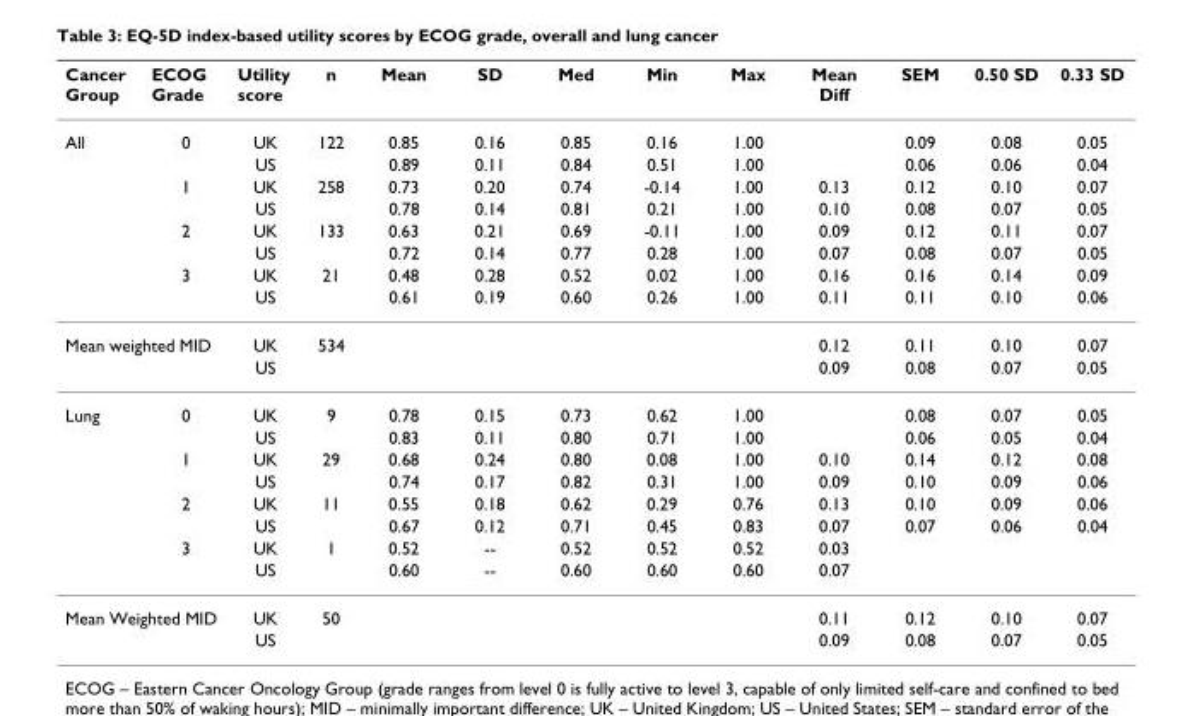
<table><thead><tr><td>Cancer Group</td><td>ECOG Grade</td><td>Utility score</td><td>n</td><td>Mean</td><td>SD</td><td>Med</td><td>Min</td><td>Max</td><td>Mean Diff</td><td>SEM</td><td>0.50 SD</td><td>0.33 SD</td></tr></thead><tbody><tr><td rowspan="8">All</td><td>0</td><td>UK</td><td>122</td><td>0.85</td><td>0.16</td><td>0.85</td><td>0.16</td><td>1.00</td><td></td><td>0.09</td><td>0.08</td><td>0.05</td></tr><tr><td></td><td>US</td><td></td><td>0.89</td><td>0.11</td><td>0.84</td><td>0.51</td><td>1.00</td><td></td><td>0.06</td><td>0.06</td><td>0.04</td></tr><tr><td>1</td><td>UK</td><td>258</td><td>0.73</td><td>0.20</td><td>0.74</td><td>-0.14</td><td>1.00</td><td>0.13</td><td>0.12</td><td>0.10</td><td>0.07</td></tr><tr><td></td><td>US</td><td></td><td>0.78</td><td>0.14</td><td>0.81</td><td>0.21</td><td>1.00</td><td>0.10</td><td>0.08</td><td>0.07</td><td>0.05</td></tr><tr><td>2</td><td>UK</td><td>133</td><td>0.63</td><td>0.21</td><td>0.69</td><td>-0.11</td><td>1.00</td><td>0.09</td><td>0.12</td><td>0.11</td><td>0.07</td></tr><tr><td></td><td>US</td><td></td><td>0.72</td><td>0.14</td><td>0.77</td><td>0.28</td><td>1.00</td><td>0.07</td><td>0.08</td><td>0.07</td><td>0.05</td></tr><tr><td>3</td><td>UK</td><td>21</td><td>0.48</td><td>0.28</td><td>0.52</td><td>0.02</td><td>1.00</td><td>0.16</td><td>0.16</td><td>0.14</td><td>0.09</td></tr><tr><td></td><td>US</td><td></td><td>0.61</td><td>0.19</td><td>0.60</td><td>0.26</td><td>1.00</td><td>0.11</td><td>0.11</td><td>0.10</td><td>0.06</td></tr><tr><td colspan="2">Mean weighted MID</td><td>UK</td><td>534</td><td></td><td></td><td></td><td></td><td></td><td>0.12</td><td>0.11</td><td>0.10</td><td>0.07</td></tr><tr><td></td><td></td><td>US</td><td></td><td></td><td></td><td></td><td></td><td></td><td>0.09</td><td>0.08</td><td>0.07</td><td>0.05</td></tr><tr><td rowspan="8">Lung</td><td>0</td><td>UK</td><td>9</td><td>0.78</td><td>0.15</td><td>0.73</td><td>0.62</td><td>1.00</td><td></td><td>0.08</td><td>0.07</td><td>0.05</td></tr><tr><td></td><td>US</td><td></td><td>0.83</td><td>0.11</td><td>0.80</td><td>0.71</td><td>1.00</td><td></td><td>0.06</td><td>0.05</td><td>0.04</td></tr><tr><td>1</td><td>UK</td><td>29</td><td>0.68</td><td>0.24</td><td>0.80</td><td>0.08</td><td>1.00</td><td>0.10</td><td>0.14</td><td>0.12</td><td>0.08</td></tr><tr><td></td><td>US</td><td></td><td>0.74</td><td>0.17</td><td>0.82</td><td>0.31</td><td>1.00</td><td>0.09</td><td>0.10</td><td>0.09</td><td>0.06</td></tr><tr><td>2</td><td>UK</td><td>11</td><td>0.55</td><td>0.18</td><td>0.62</td><td>0.29</td><td>0.76</td><td>0.13</td><td>0.10</td><td>0.09</td><td>0.06</td></tr><tr><td></td><td>US</td><td></td><td>0.67</td><td>0.12</td><td>0.71</td><td>0.45</td><td>0.83</td><td>0.07</td><td>0.07</td><td>0.06</td><td>0.04</td></tr><tr><td>3</td><td>UK</td><td>1</td><td>0.52</td><td>--</td><td>0.52</td><td>0.52</td><td>0.52</td><td>0.03</td><td></td><td></td><td></td></tr><tr><td></td><td>US</td><td></td><td>0.60</td><td>--</td><td>0.60</td><td>0.60</td><td>0.60</td><td>0.07</td><td></td><td></td><td></td></tr><tr><td colspan="2">Mean Weighted MID</td><td>UK</td><td>50</td><td></td><td></td><td></td><td></td><td></td><td>0.11</td><td>0.12</td><td>0.10</td><td>0.07</td></tr><tr><td></td><td></td><td>US</td><td></td><td></td><td></td><td></td><td></td><td></td><td>0.09</td><td>0.08</td><td>0.07</td><td>0.05</td></tr></tbody></table>